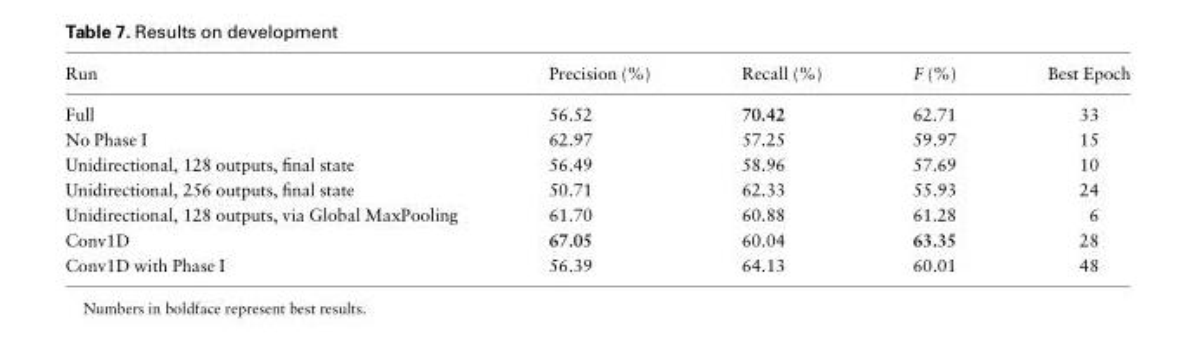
<table><thead><tr><td>Run</td><td>Precision (%)</td><td>Recall (%)</td><td>F (%)</td><td>Best Epoch</td></tr></thead><tbody><tr><td>Full</td><td>56.52</td><td>70.42</td><td>62.71</td><td>33</td></tr><tr><td>No Phase I</td><td>62.97</td><td>57.25</td><td>59.97</td><td>15</td></tr><tr><td>Unidirectional, 128 outputs, final state</td><td>56.49</td><td>58.96</td><td>57.69</td><td>10</td></tr><tr><td>Unidirectional, 256 outputs, final state</td><td>50.71</td><td>62.33</td><td>55.93</td><td>24</td></tr><tr><td>Unidirectional, 128 outputs, via Global MaxPooling</td><td>61.70</td><td>60.88</td><td>61.28</td><td>6</td></tr><tr><td>Conv1D</td><td>67.05</td><td>60.04</td><td>63.35</td><td>28</td></tr><tr><td>Conv1D with Phase I</td><td>56.39</td><td>64.13</td><td>60.01</td><td>48</td></tr></tbody></table>